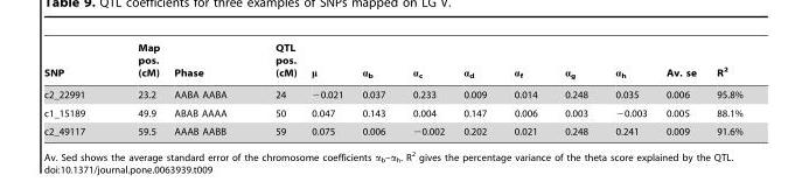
<table><thead><tr><td>SNP</td><td>Map pos. (cM)</td><td>Phase</td><td>QTL pos. (cM)</td><td>μ</td><td>α<sub>b</sub></td><td>α<sub>c</sub></td><td>α<sub>d</sub></td><td>α<sub>f</sub></td><td>α<sub>g</sub></td><td>α<sub>h</sub></td><td>Av. se</td><td>R<sup>2</sup></td></tr></thead><tbody><tr><td>c2_22991</td><td>23.2</td><td>AABA AABA</td><td>24</td><td>−0.021</td><td>0.037</td><td>0.233</td><td>0.009</td><td>0.014</td><td>0.248</td><td>0.035</td><td>0.006</td><td>95.8%</td></tr><tr><td>c1_15189</td><td>49.9</td><td>ABAB AAAA</td><td>50</td><td>0.047</td><td>0.143</td><td>0.004</td><td>0.147</td><td>0.006</td><td>0.003</td><td>−0.003</td><td>0.005</td><td>88.1%</td></tr><tr><td>c2_49117</td><td>59.5</td><td>AAAB AABB</td><td>59</td><td>0.075</td><td>0.006</td><td>−0.002</td><td>0.202</td><td>0.021</td><td>0.248</td><td>0.241</td><td>0.009</td><td>91.6%</td></tr></tbody></table>